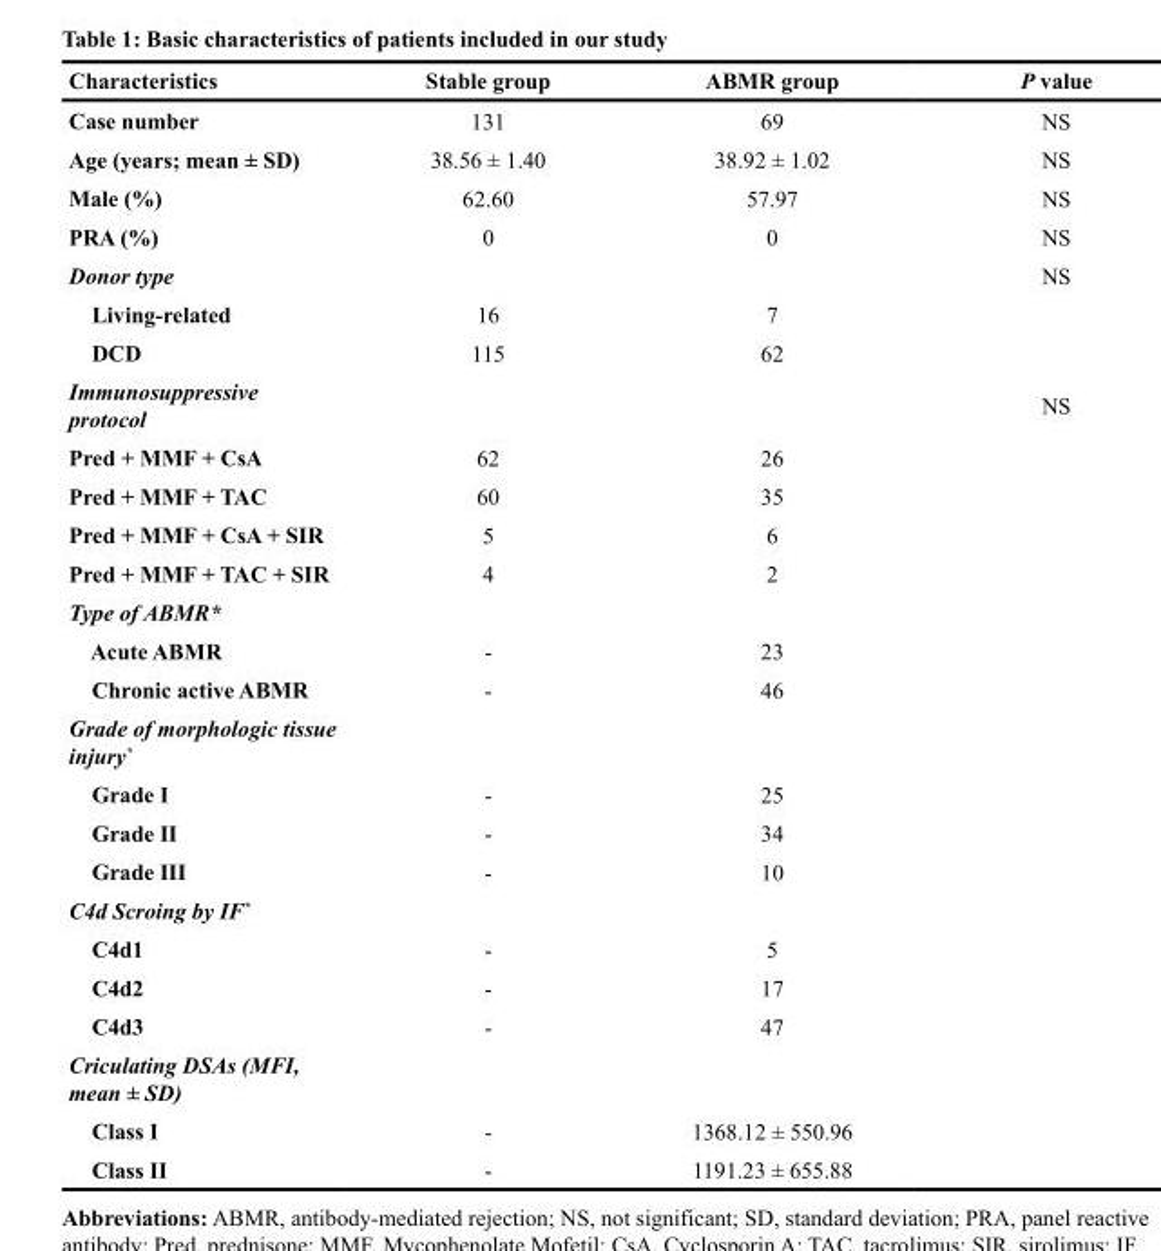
<table><thead><tr><td>Characteristics</td><td>Stable group</td><td>ABMR group</td><td>P value</td></tr></thead><tbody><tr><td>Case number</td><td>131</td><td>69</td><td>NS</td></tr><tr><td>Age (years; mean ± SD)</td><td>38.56 ± 1.40</td><td>38.92 ± 1.02</td><td>NS</td></tr><tr><td>Male (%)</td><td>62.60</td><td>57.97</td><td>NS</td></tr><tr><td>PRA (%)</td><td>0</td><td>0</td><td>NS</td></tr><tr><td>Donor type</td><td></td><td></td><td>NS</td></tr><tr><td>Living-related</td><td>16</td><td>7</td><td></td></tr><tr><td>DCD</td><td>115</td><td>62</td><td></td></tr><tr><td>Immunosuppressive protocol</td><td></td><td></td><td>NS</td></tr><tr><td>Pred + MMF + CsA</td><td>62</td><td>26</td><td></td></tr><tr><td>Pred + MMF + TAC</td><td>60</td><td>35</td><td></td></tr><tr><td>Pred + MMF + CsA + SIR</td><td>5</td><td>6</td><td></td></tr><tr><td>Pred + MMF + TAC + SIR</td><td>4</td><td>2</td><td></td></tr><tr><td colspan="4">Type of ABMR*</td></tr><tr><td>Acute ABMR</td><td>-</td><td>23</td><td></td></tr><tr><td>Chronic active ABMR</td><td>-</td><td>46</td><td></td></tr><tr><td colspan="4">Grade of morphologic tissue injury*</td></tr><tr><td>Grade I</td><td>-</td><td>25</td><td></td></tr><tr><td>Grade II</td><td>-</td><td>34</td><td></td></tr><tr><td>Grade III</td><td>-</td><td>10</td><td></td></tr><tr><td colspan="4">C4d Scroing by IF*</td></tr><tr><td>C4d1</td><td>-</td><td>5</td><td></td></tr><tr><td>C4d2</td><td>-</td><td>17</td><td></td></tr><tr><td>C4d3</td><td>-</td><td>47</td><td></td></tr><tr><td colspan="4">Criculating DSAs (MFI, mean ± SD)</td></tr><tr><td>Class I</td><td>-</td><td>1368.12 ± 550.96</td><td></td></tr><tr><td>Class II</td><td>-</td><td>1191.23 ± 655.88</td><td></td></tr></tbody></table>